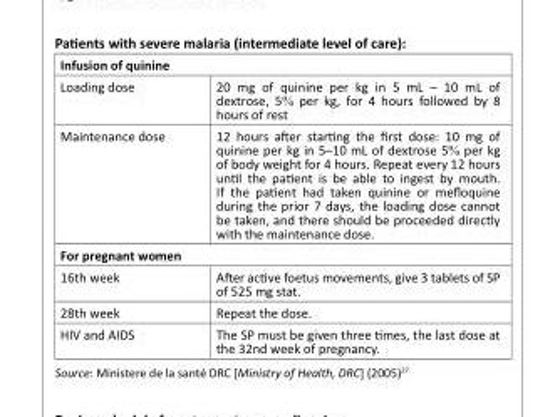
<table><tbody><tr><td colspan="2">Infusion of quinine</td></tr><tr><td>Loading dose</td><td>20 mg of quinine per kg in 5 mL – 10 mL of dextrose, 5% per kg, for 4 hours followed by 8 hours of rest</td></tr><tr><td>Maintenance dose</td><td>12 hours after starting the first dose: 10 mg of quinine per kg in 5–10 mL of dextrose 5% per kg of body weight for 4 hours. Repeat every 12 hours until the patient is be able to ingest by mouth. If the patient had taken quinine or mefloquine during the prior 7 days, the loading dose cannot be taken, and there should be proceeded directly with the maintenance dose.</td></tr><tr><td colspan="2">For pregnant women</td></tr><tr><td>16th week</td><td>After active foetus movements, give 3 tablets of SP of 525 mg stat.</td></tr><tr><td>28th week</td><td>Repeat the dose.</td></tr><tr><td>HIV and AIDS</td><td>The SP must be given three times, the last dose at the 32nd week of pregnancy.</td></tr></tbody></table>